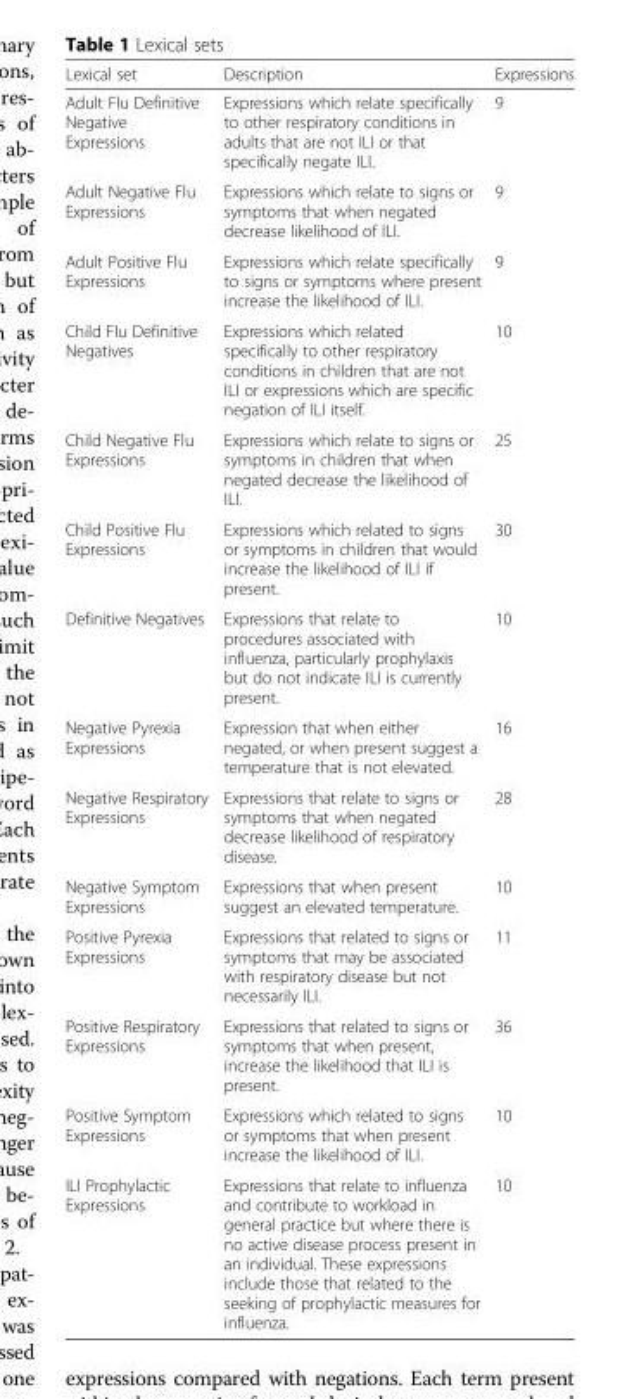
<table><thead><tr><td>Lexical set</td><td>Description</td><td>Expressions</td></tr></thead><tbody><tr><td>Adult Flu Definitive Negative Expressions</td><td>Expressions which relate specifically to other respiratory conditions in adults that are not ILI or that specifically negate ILI.</td><td>9</td></tr><tr><td>Adult Negative Flu Expressions</td><td>Expressions which relate to signs or symptoms that when negated decrease likelihood of ILI.</td><td>9</td></tr><tr><td>Adult Positive Flu Expressions</td><td>Expressions which relate specifically to signs or symptoms where present increase the likelihood of ILI.</td><td>9</td></tr><tr><td>Child Flu Definitive Negatives</td><td>Expressions which related specifically to other respiratory conditions in children that are not ILI or expressions which are specific negation of ILI itself.</td><td>10</td></tr><tr><td>Child Negative Flu Expressions</td><td>Expressions which relate to signs or symptoms in children that when negated decrease the likelihood of ILI.</td><td>25</td></tr><tr><td>Child Positive Flu Expressions</td><td>Expressions which related to signs or symptoms in children that would increase the likelihood of ILI if present.</td><td>30</td></tr><tr><td>Definitive Negatives</td><td>Expressions that relate to procedures associated with influenza, particularly prophylaxis but do not indicate ILI is currently present.</td><td>10</td></tr><tr><td>Negative Pyrexia Expressions</td><td>Expression that when either negated, or when present suggest a temperature that is not elevated.</td><td>16</td></tr><tr><td>Negative Respiratory Expressions</td><td>Expressions that relate to signs or symptoms that when negated decrease likelihood of respiratory disease.</td><td>28</td></tr><tr><td>Negative Symptom Expressions</td><td>Expressions that when present suggest an elevated temperature.</td><td>10</td></tr><tr><td>Positive Pyrexia Expressions</td><td>Expressions that related to signs or symptoms that may be associated with respiratory disease but not necessarily ILI.</td><td>11</td></tr><tr><td>Positive Respiratory Expressions</td><td>Expressions that related to signs or symptoms that when present, increase the likelihood that ILI is present.</td><td>36</td></tr><tr><td>Positive Symptom Expressions</td><td>Expressions which related to signs or symptoms that when present increase the likelihood of ILI.</td><td>10</td></tr><tr><td>ILI Prophylactic Expressions</td><td>Expressions that relate to influenza and contribute to workload in general practice but where there is no active disease process present in an individual. These expressions include those that related to the seeking of prophylactic measures for influenza.</td><td>10</td></tr></tbody></table>